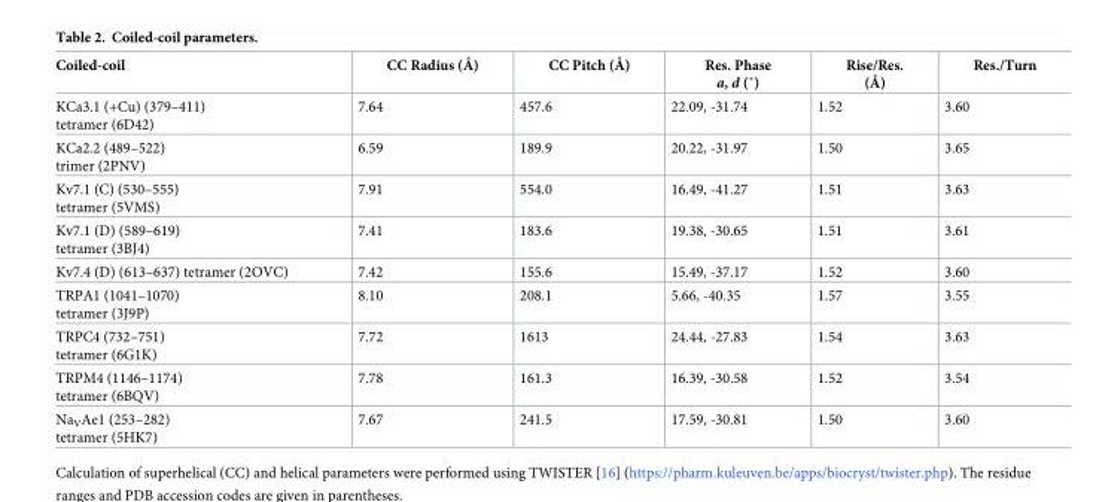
<table><thead><tr><td>Coiled-coil</td><td>CC Radius (Å)</td><td>CC Pitch (Å)</td><td>Res. Phase a, d (˚)</td><td>Rise/Res. (Å)</td><td>Res./Turn</td></tr></thead><tbody><tr><td>KCa3.1 (+Cu) (379–411) tetramer (6D42)</td><td>7.64</td><td>457.6</td><td>22.09, -31.74</td><td>1.52</td><td>3.60</td></tr><tr><td>KCa2.2 (489–522) trimer (2PNV)</td><td>6.59</td><td>189.9</td><td>20.22, -31.97</td><td>1.50</td><td>3.65</td></tr><tr><td>Kv7.1 (C) (530–555) tetramer (5VMS)</td><td>7.91</td><td>554.0</td><td>16.49, -41.27</td><td>1.51</td><td>3.63</td></tr><tr><td>Kv7.1 (D) (589–619) tetramer (3BJ4)</td><td>7.41</td><td>183.6</td><td>19.38, -30.65</td><td>1.51</td><td>3.61</td></tr><tr><td>Kv7.4 (D) (613–637) tetramer (2OVC)</td><td>7.42</td><td>155.6</td><td>15.49, -37.17</td><td>1.52</td><td>3.60</td></tr><tr><td>TRPA1 (1041–1070) tetramer (3J9P)</td><td>8.10</td><td>208.1</td><td>5.66, -40.35</td><td>1.57</td><td>3.55</td></tr><tr><td>TRPC4 (732–751) tetramer (6G1K)</td><td>7.72</td><td>1613</td><td>24.44, -27.83</td><td>1.54</td><td>3.63</td></tr><tr><td>TRPM4 (1146–1174) tetramer (6BQV)</td><td>7.78</td><td>161.3</td><td>16.39, -30.58</td><td>1.52</td><td>3.54</td></tr><tr><td>Na<sub>V</sub>Ae1 (253–282) tetramer (5HK7)</td><td>7.67</td><td>241.5</td><td>17.59, -30.81</td><td>1.50</td><td>3.60</td></tr></tbody></table>